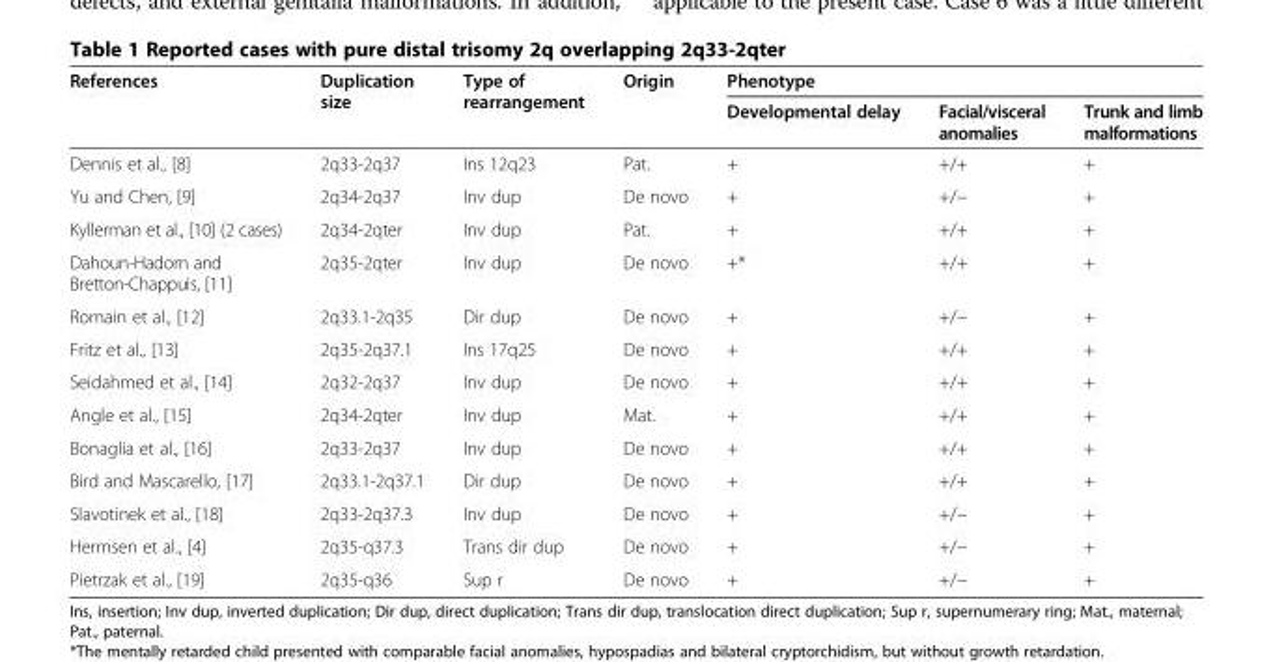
<table><thead><tr><td rowspan="2">References</td><td rowspan="2">Duplication size</td><td rowspan="2">Type of rearrangement</td><td rowspan="2">Origin</td><td colspan="3">Phenotype</td></tr><tr><td>Developmental delay</td><td>Facial/visceral anomalies</td><td>Trunk and limb malformations</td></tr></thead><tbody><tr><td>Dennis et al., [8]</td><td>2q33-2q37</td><td>Ins 12q23</td><td>Pat.</td><td>+</td><td>+/+</td><td>+</td></tr><tr><td>Yu and Chen, [9]</td><td>2q34-2q37</td><td>Inv dup</td><td>De novo</td><td>+</td><td>+/−</td><td>+</td></tr><tr><td>Kyllerman et al., [10] (2 cases)</td><td>2q34-2qter</td><td>Inv dup</td><td>Pat.</td><td>+</td><td>+/+</td><td>+</td></tr><tr><td>Dahoun-Hadorn and Bretton-Chappuis, [11]</td><td>2q35-2qter</td><td>Inv dup</td><td>De novo</td><td>+*</td><td>+/+</td><td>+</td></tr><tr><td>Romain et al., [12]</td><td>2q33.1-2q35</td><td>Dir dup</td><td>De novo</td><td>+</td><td>+/−</td><td>+</td></tr><tr><td>Fritz et al., [13]</td><td>2q35-2q37.1</td><td>Ins 17q25</td><td>De novo</td><td>+</td><td>+/+</td><td>+</td></tr><tr><td>Seidahmed et al., [14]</td><td>2q32-2q37</td><td>Inv dup</td><td>De novo</td><td>+</td><td>+/+</td><td>+</td></tr><tr><td>Angle et al., [15]</td><td>2q34-2qter</td><td>Inv dup</td><td>Mat.</td><td>+</td><td>+/+</td><td>+</td></tr><tr><td>Bonaglia et al., [16]</td><td>2q33-2q37</td><td>Inv dup</td><td>De novo</td><td>+</td><td>+/+</td><td>+</td></tr><tr><td>Bird and Mascarello, [17]</td><td>2q33.1-2q37.1</td><td>Dir dup</td><td>De novo</td><td>+</td><td>+/+</td><td>+</td></tr><tr><td>Slavotinek et al., [18]</td><td>2q33-2q37.3</td><td>Inv dup</td><td>De novo</td><td>+</td><td>+/−</td><td>+</td></tr><tr><td>Hermsen et al., [4]</td><td>2q35-q37.3</td><td>Trans dir dup</td><td>De novo</td><td>+</td><td>+/−</td><td>+</td></tr><tr><td>Pietrzak et al., [19]</td><td>2q35-q36</td><td>Sup r</td><td>De novo</td><td>+</td><td>+/−</td><td>+</td></tr></tbody></table>